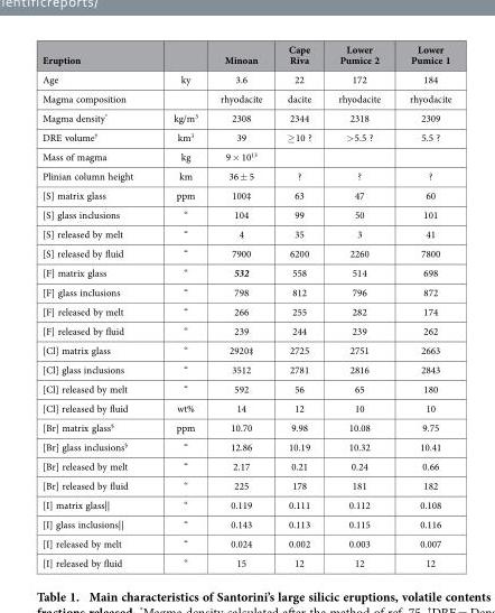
<table><thead><tr><td>Eruption</td><td></td><td>Minoan</td><td>Cape Riva</td><td>Lower Pumice 2</td><td>Lower Pumice 1</td></tr></thead><tbody><tr><td>Age</td><td>ky</td><td>3.6</td><td>22</td><td>172</td><td>184</td></tr><tr><td>Magma composition</td><td></td><td>rhyodacite</td><td>dacite</td><td>rhyodacite</td><td>rhyodacite</td></tr><tr><td>Magma density*</td><td>kg/m<sup>3</sup></td><td>2308</td><td>2344</td><td>2318</td><td>2309</td></tr><tr><td>DRE volume<sup>†</sup></td><td>km<sup>3</sup></td><td>39</td><td>≥ 10 ?</td><td>&gt; 5.5 ?</td><td>5.5 ?</td></tr><tr><td>Mass of magma</td><td>kg</td><td>9 × 10<sup>13</sup></td><td></td><td></td><td></td></tr><tr><td>Plinian column height</td><td>km</td><td>36 ± 5</td><td>?</td><td>?</td><td>?</td></tr><tr><td>[S] matrix glass</td><td>ppm</td><td>100‡</td><td>63</td><td>47</td><td>60</td></tr><tr><td>[S] glass inclusions</td><td>“</td><td>104</td><td>99</td><td>50</td><td>101</td></tr><tr><td>[S] released by melt</td><td>“</td><td>4</td><td>35</td><td>3</td><td>41</td></tr><tr><td>[S] released by fluid</td><td>“</td><td>7900</td><td>6200</td><td>2260</td><td>7800</td></tr><tr><td>[F] matrix glass</td><td>“</td><td>532</td><td>558</td><td>514</td><td>698</td></tr><tr><td>[F] glass inclusions</td><td>“</td><td>798</td><td>812</td><td>796</td><td>872</td></tr><tr><td>[F] released by melt</td><td>“</td><td>266</td><td>255</td><td>282</td><td>174</td></tr><tr><td>[F] released by fluid</td><td>“</td><td>239</td><td>244</td><td>239</td><td>262</td></tr><tr><td>[Cl] matrix glass</td><td>“</td><td>2920‡</td><td>2725</td><td>2751</td><td>2663</td></tr><tr><td>[Cl] glass inclusions</td><td>“</td><td>3512</td><td>2781</td><td>2816</td><td>2843</td></tr><tr><td>[Cl] released by melt</td><td>“</td><td>592</td><td>56</td><td>65</td><td>180</td></tr><tr><td>[Cl] released by fluid</td><td>wt%</td><td>14</td><td>12</td><td>10</td><td>10</td></tr><tr><td>[Br] matrix glass<sup>§</sup></td><td>ppm</td><td>10.70</td><td>9.98</td><td>10.08</td><td>9.75</td></tr><tr><td>[Br] glass inclusions<sup>§</sup></td><td>“</td><td>12.86</td><td>10.19</td><td>10.32</td><td>10.41</td></tr><tr><td>[Br] released by melt</td><td>“</td><td>2.17</td><td>0.21</td><td>0.24</td><td>0.66</td></tr><tr><td>[Br] released by fluid</td><td>“</td><td>225</td><td>178</td><td>181</td><td>182</td></tr><tr><td>[I] matrix glass||</td><td>“</td><td>0.119</td><td>0.111</td><td>0.112</td><td>0.108</td></tr><tr><td>[I] glass inclusions||</td><td>“</td><td>0.143</td><td>0.113</td><td>0.115</td><td>0.116</td></tr><tr><td>[I] released by melt</td><td>“</td><td>0.024</td><td>0.002</td><td>0.003</td><td>0.007</td></tr><tr><td>[I] released by fluid</td><td>“</td><td>15</td><td>12</td><td>12</td><td>12</td></tr></tbody></table>